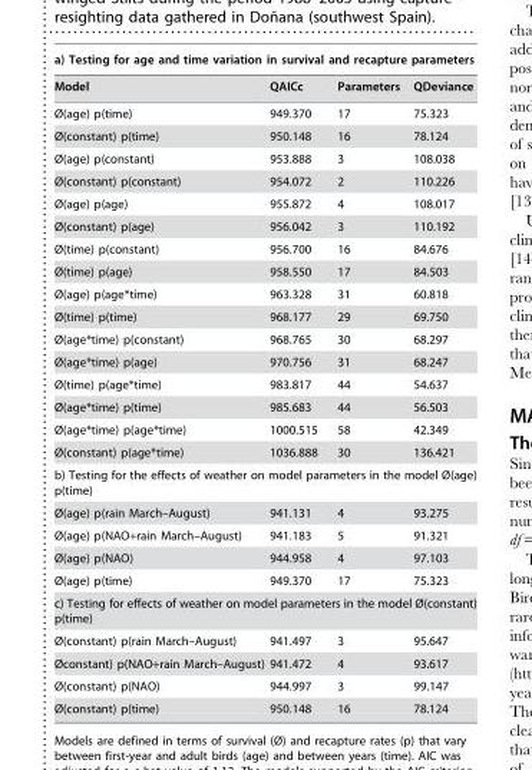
<table><thead><tr><td colspan="4">a) Testing for age and time variation in survival and recapture parameters</td></tr><tr><td>Model</td><td>QAICc</td><td>Parameters</td><td>QDeviance</td></tr></thead><tbody><tr><td>Ø(age) p(time)</td><td>949.370</td><td>17</td><td>75.323</td></tr><tr><td>Ø(constant) p(time)</td><td>950.148</td><td>16</td><td>78.124</td></tr><tr><td>Ø(age) p(constant)</td><td>953.888</td><td>3</td><td>108.038</td></tr><tr><td>Ø(constant) p(constant)</td><td>954.072</td><td>2</td><td>110.226</td></tr><tr><td>Ø(age) p(age)</td><td>955.872</td><td>4</td><td>108.017</td></tr><tr><td>Ø(constant) p(age)</td><td>956.042</td><td>3</td><td>110.192</td></tr><tr><td>Ø(time) p(constant)</td><td>956.700</td><td>16</td><td>84.676</td></tr><tr><td>Ø(time) p(age)</td><td>958.550</td><td>17</td><td>84.503</td></tr><tr><td>Ø(age) p(age*time)</td><td>963.328</td><td>31</td><td>60.818</td></tr><tr><td>Ø(time) p(time)</td><td>968.177</td><td>29</td><td>69.750</td></tr><tr><td>Ø(age*time) p(constant)</td><td>968.765</td><td>30</td><td>68.297</td></tr><tr><td>Ø(age*time) p(age)</td><td>970.756</td><td>31</td><td>68.247</td></tr><tr><td>Ø(time) p(age*time)</td><td>983.817</td><td>44</td><td>54.637</td></tr><tr><td>Ø(age*time) p(time)</td><td>985.683</td><td>44</td><td>56.503</td></tr><tr><td>Ø(age*time) p(age*time)</td><td>1000.515</td><td>58</td><td>42.349</td></tr><tr><td>Ø(constant) p(age*time)</td><td>1036.888</td><td>30</td><td>136.421</td></tr><tr><td colspan="4">b) Testing for the effects of weather on model parameters in the model Ø(age) p(time)</td></tr><tr><td>Ø(age) p(rain March–August)</td><td>941.131</td><td>4</td><td>93.275</td></tr><tr><td>Ø(age) p(NAO+rain March–August)</td><td>941.183</td><td>5</td><td>91.321</td></tr><tr><td>Ø(age) p(NAO)</td><td>944.958</td><td>4</td><td>97.103</td></tr><tr><td>Ø(age) p(time)</td><td>949.370</td><td>17</td><td>75.323</td></tr><tr><td colspan="4">c) Testing for effects of weather on model parameters in the model Ø(constant) p(time)</td></tr><tr><td>Ø(constant) p(rain March–August)</td><td>941.497</td><td>3</td><td>95.647</td></tr><tr><td>Øconstant) p(NAO+rain March–August)</td><td>941.472</td><td>4</td><td>93.617</td></tr><tr><td>Ø(constant) p(NAO)</td><td>944.997</td><td>3</td><td>99.147</td></tr><tr><td>Ø(constant) p(time)</td><td>950.148</td><td>16</td><td>78.124</td></tr></tbody></table>